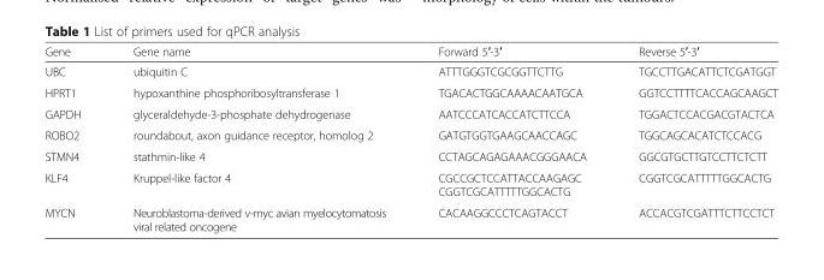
<table><thead><tr><td>Gene</td><td>Gene name</td><td>Forward 5′-3′</td><td>Reverse 5′-3′</td></tr></thead><tbody><tr><td>UBC</td><td>ubiquitin C</td><td>ATTTGGGTCGCGGTTCTTG</td><td>TGCCTTGACATTCTCGATGGT</td></tr><tr><td>HPRT1</td><td>hypoxanthine phosphoribosyltransferase 1</td><td>TGACACTGGCAAAACAATGCA</td><td>GGTCCTTTTCACCAGCAAGCT</td></tr><tr><td>GAPDH</td><td>glyceraldehyde-3-phosphate dehydrogenase</td><td>AATCCCATCACCATCTTCCA</td><td>TGGACTCCACGACGTACTCA</td></tr><tr><td>ROBO2</td><td>roundabout, axon guidance receptor, homolog 2</td><td>GATGTGGTGAAGCAACCAGC</td><td>TGGCAGCACATCTCCACG</td></tr><tr><td>STMN4</td><td>stathmin-like 4</td><td>CCTAGCAGAGAAACGGGAACA</td><td>GGCGTGCTTGTCCTTCTCTT</td></tr><tr><td>KLF4</td><td>Kruppel-like factor 4</td><td>CGCCGCTCCATTACCAAGAGC CGGTCGCATTTTTGGCACTG</td><td>CGGTCGCATTTTTGGCACTG</td></tr><tr><td>MYCN</td><td>Neuroblastoma-derived v-myc avian myelocytomatosis viral related oncogene</td><td>CACAAGGCCCTCAGTACCT</td><td>ACCACGTCGATTTCTTCCTCT</td></tr></tbody></table>